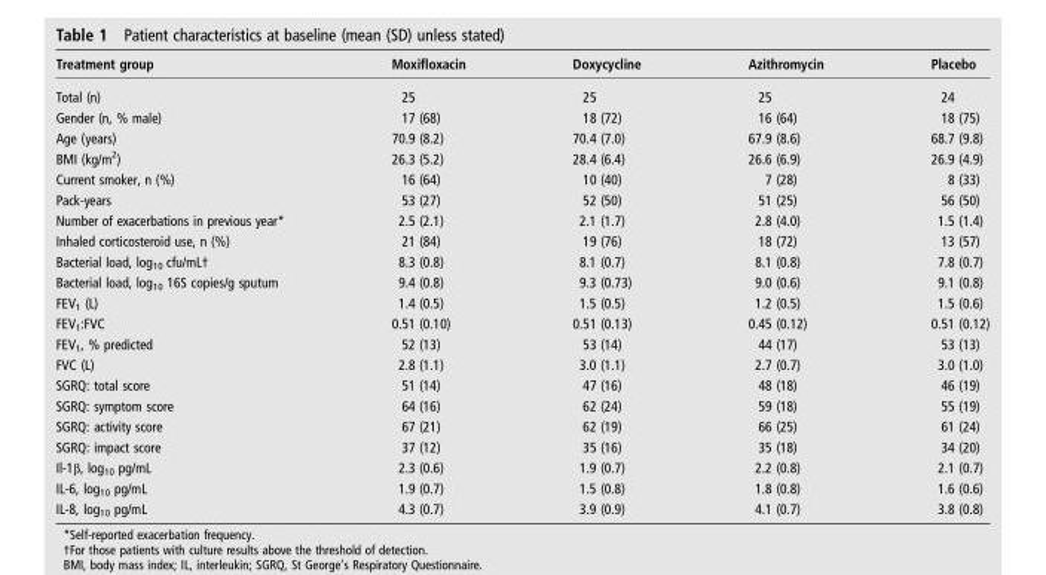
<table><thead><tr><td>Treatment group</td><td>Moxifloxacin</td><td>Doxycycline</td><td>Azithromycin</td><td>Placebo</td></tr></thead><tbody><tr><td>Total (n)</td><td>25</td><td>25</td><td>25</td><td>24</td></tr><tr><td>Gender (n, % male)</td><td>17 (68)</td><td>18 (72)</td><td>16 (64)</td><td>18 (75)</td></tr><tr><td>Age (years)</td><td>70.9 (8.2)</td><td>70.4 (7.0)</td><td>67.9 (8.6)</td><td>68.7 (9.8)</td></tr><tr><td>BMI (kg/m<sup>2</sup>)</td><td>26.3 (5.2)</td><td>28.4 (6.4)</td><td>26.6 (6.9)</td><td>26.9 (4.9)</td></tr><tr><td>Current smoker, n (%)</td><td>16 (64)</td><td>10 (40)</td><td>7 (28)</td><td>8 (33)</td></tr><tr><td>Pack-years</td><td>53 (27)</td><td>52 (50)</td><td>51 (25)</td><td>56 (50)</td></tr><tr><td>Number of exacerbations in previous year*</td><td>2.5 (2.1)</td><td>2.1 (1.7)</td><td>2.8 (4.0)</td><td>1.5 (1.4)</td></tr><tr><td>Inhaled corticosteroid use, n (%)</td><td>21 (84)</td><td>19 (76)</td><td>18 (72)</td><td>13 (57)</td></tr><tr><td>Bacterial load, log<sub>10</sub> cfu/mL†</td><td>8.3 (0.8)</td><td>8.1 (0.7)</td><td>8.1 (0.8)</td><td>7.8 (0.7)</td></tr><tr><td>Bacterial load, log<sub>10</sub> 16S copies/g sputum</td><td>9.4 (0.8)</td><td>9.3 (0.73)</td><td>9.0 (0.6)</td><td>9.1 (0.8)</td></tr><tr><td>FEV<sub>1</sub> (L)</td><td>1.4 (0.5)</td><td>1.5 (0.5)</td><td>1.2 (0.5)</td><td>1.5 (0.6)</td></tr><tr><td>FEV<sub>1</sub>:FVC</td><td>0.51 (0.10)</td><td>0.51 (0.13)</td><td>0.45 (0.12)</td><td>0.51 (0.12)</td></tr><tr><td>FEV<sub>1</sub>, % predicted</td><td>52 (13)</td><td>53 (14)</td><td>44 (17)</td><td>53 (13)</td></tr><tr><td>FVC (L)</td><td>2.8 (1.1)</td><td>3.0 (1.1)</td><td>2.7 (0.7)</td><td>3.0 (1.0)</td></tr><tr><td>SGRQ: total score</td><td>51 (14)</td><td>47 (16)</td><td>48 (18)</td><td>46 (19)</td></tr><tr><td>SGRQ: symptom score</td><td>64 (16)</td><td>62 (24)</td><td>59 (18)</td><td>55 (19)</td></tr><tr><td>SGRQ: activity score</td><td>67 (21)</td><td>62 (19)</td><td>66 (25)</td><td>61 (24)</td></tr><tr><td>SGRQ: impact score</td><td>37 (12)</td><td>35 (16)</td><td>35 (18)</td><td>34 (20)</td></tr><tr><td>Il-1β, log<sub>10</sub> pg/mL</td><td>2.3 (0.6)</td><td>1.9 (0.7)</td><td>2.2 (0.8)</td><td>2.1 (0.7)</td></tr><tr><td>IL-6, log<sub>10</sub> pg/mL</td><td>1.9 (0.7)</td><td>1.5 (0.8)</td><td>1.8 (0.8)</td><td>1.6 (0.6)</td></tr><tr><td>IL-8, log<sub>10</sub> pg/mL</td><td>4.3 (0.7)</td><td>3.9 (0.9)</td><td>4.1 (0.7)</td><td>3.8 (0.8)</td></tr></tbody></table>